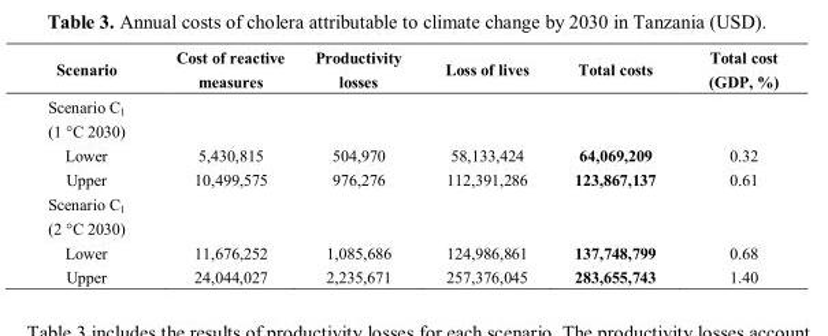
<table><thead><tr><td>Scenario</td><td>Cost of reactive measures</td><td>Productivity losses</td><td>Loss of lives</td><td>Total costs</td><td>Total cost (GDP, %)</td></tr></thead><tbody><tr><td colspan="6">Scenario C<sub>1</sub> (1 °C 2030)</td></tr><tr><td>Lower</td><td>5,430,815</td><td>504,970</td><td>58,133,424</td><td>64,069,209</td><td>0.32</td></tr><tr><td>Upper</td><td>10,499,575</td><td>976,276</td><td>112,391,286</td><td>123,867,137</td><td>0.61</td></tr><tr><td colspan="6">Scenario C<sub>1</sub> (2 °C 2030)</td></tr><tr><td>Lower</td><td>11,676,252</td><td>1,085,686</td><td>124,986,861</td><td>137,748,799</td><td>0.68</td></tr><tr><td>Upper</td><td>24,044,027</td><td>2,235,671</td><td>257,376,045</td><td>283,655,743</td><td>1.40</td></tr></tbody></table>